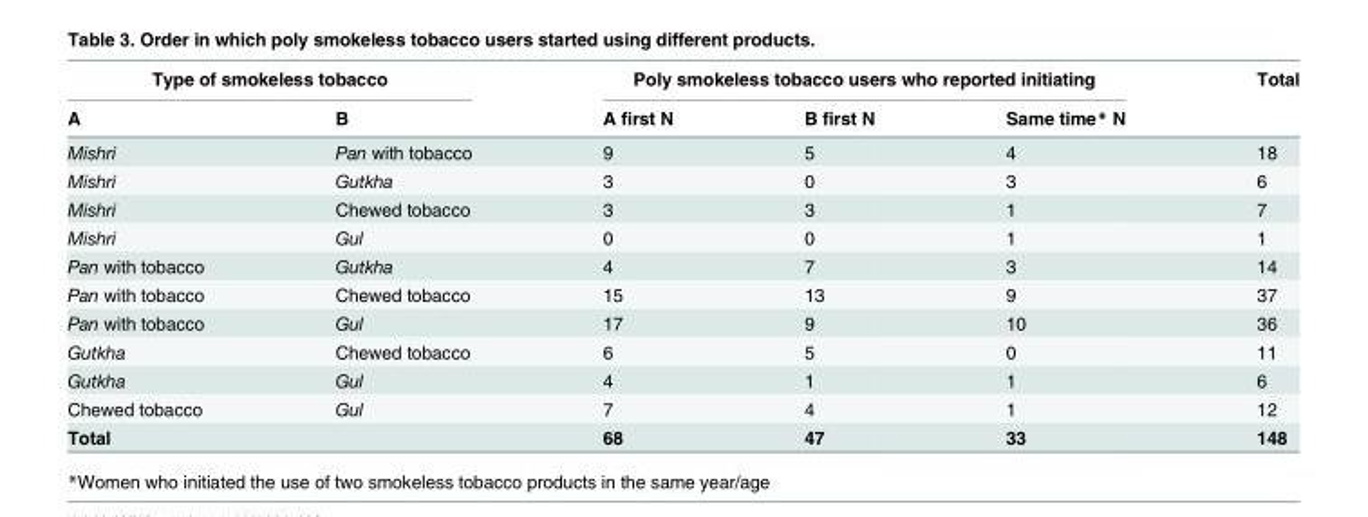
<table><thead><tr><td colspan="2">Type of smokeless tobacco</td><td colspan="3">Poly smokeless tobacco users who reported initiating</td><td rowspan="2">Total</td></tr><tr><td>A</td><td>B</td><td>A first N</td><td>B first N</td><td>Same time* N</td></tr></thead><tbody><tr><td>Mishri</td><td>Pan with tobacco</td><td>9</td><td>5</td><td>4</td><td>18</td></tr><tr><td>Mishri</td><td>Gutkha</td><td>3</td><td>0</td><td>3</td><td>6</td></tr><tr><td>Mishri</td><td>Chewed tobacco</td><td>3</td><td>3</td><td>1</td><td>7</td></tr><tr><td>Mishri</td><td>Gul</td><td>0</td><td>0</td><td>1</td><td>1</td></tr><tr><td>Pan with tobacco</td><td>Gutkha</td><td>4</td><td>7</td><td>3</td><td>14</td></tr><tr><td>Pan with tobacco</td><td>Chewed tobacco</td><td>15</td><td>13</td><td>9</td><td>37</td></tr><tr><td>Pan with tobacco</td><td>Gul</td><td>17</td><td>9</td><td>10</td><td>36</td></tr><tr><td>Gutkha</td><td>Chewed tobacco</td><td>6</td><td>5</td><td>0</td><td>11</td></tr><tr><td>Gutkha</td><td>Gul</td><td>4</td><td>1</td><td>1</td><td>6</td></tr><tr><td>Chewed tobacco</td><td>Gul</td><td>7</td><td>4</td><td>1</td><td>12</td></tr><tr><td>Total</td><td></td><td>68</td><td>47</td><td>33</td><td>148</td></tr></tbody></table>